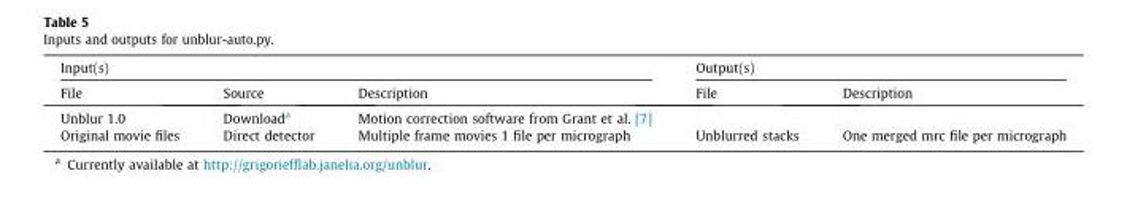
<table><thead><tr><td colspan="3">Input(s)</td><td colspan="2">Output(s)</td></tr><tr><td>File</td><td>Source</td><td>Description</td><td>File</td><td>Description</td></tr></thead><tbody><tr><td>Unblur 1.0</td><td>Download<sup>a</sup></td><td>Motion correction software from Grant et al. [7]</td><td></td><td></td></tr><tr><td>Original movie files</td><td>Direct detector</td><td>Multiple frame movies 1 file per micrograph</td><td>Unblurred stacks</td><td>One merged mrc file per micrograph</td></tr></tbody></table>